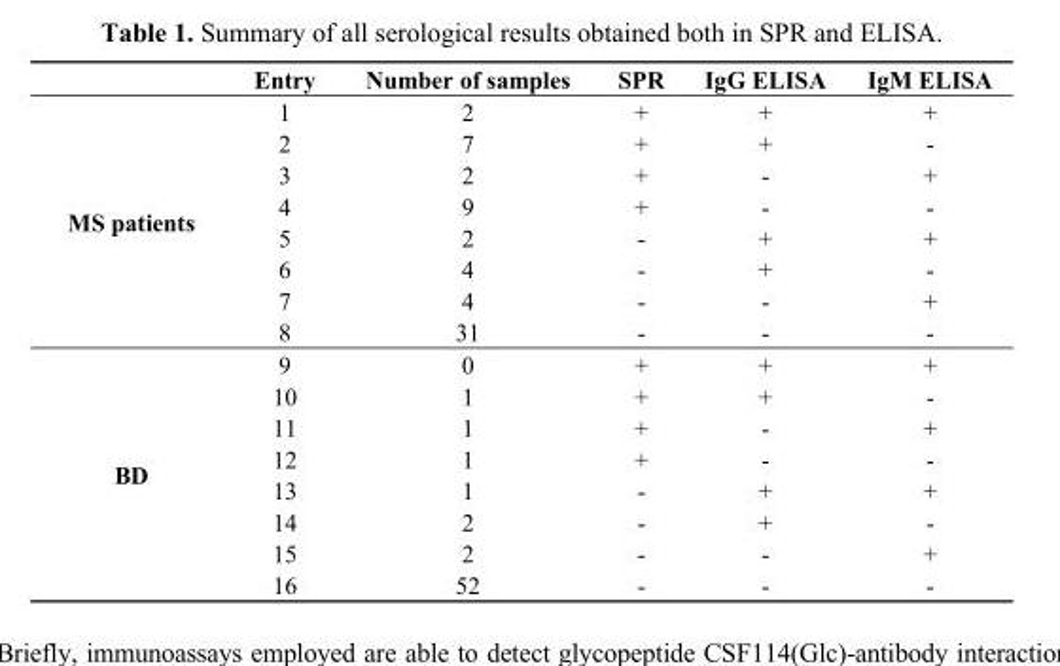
<table><thead><tr><td></td><td>Entry</td><td>Number of samples</td><td>SPR</td><td>IgG ELISA</td><td>IgM ELISA</td></tr></thead><tbody><tr><td rowspan="8">MS patients</td><td>1</td><td>2</td><td>+</td><td>+</td><td>+</td></tr><tr><td>2</td><td>7</td><td>+</td><td>+</td><td>-</td></tr><tr><td>3</td><td>2</td><td>+</td><td>-</td><td>+</td></tr><tr><td>4</td><td>9</td><td>+</td><td>-</td><td>-</td></tr><tr><td>5</td><td>2</td><td>-</td><td>+</td><td>+</td></tr><tr><td>6</td><td>4</td><td>-</td><td>+</td><td>-</td></tr><tr><td>7</td><td>4</td><td>-</td><td>-</td><td>+</td></tr><tr><td>8</td><td>31</td><td>-</td><td>-</td><td>-</td></tr><tr><td rowspan="8">BD</td><td>9</td><td>0</td><td>+</td><td>+</td><td>+</td></tr><tr><td>10</td><td>1</td><td>+</td><td>+</td><td>-</td></tr><tr><td>11</td><td>1</td><td>+</td><td>-</td><td>+</td></tr><tr><td>12</td><td>1</td><td>+</td><td>-</td><td>-</td></tr><tr><td>13</td><td>1</td><td>-</td><td>+</td><td>+</td></tr><tr><td>14</td><td>2</td><td>-</td><td>+</td><td>-</td></tr><tr><td>15</td><td>2</td><td>-</td><td>-</td><td>+</td></tr><tr><td>16</td><td>52</td><td>-</td><td>-</td><td>-</td></tr></tbody></table>